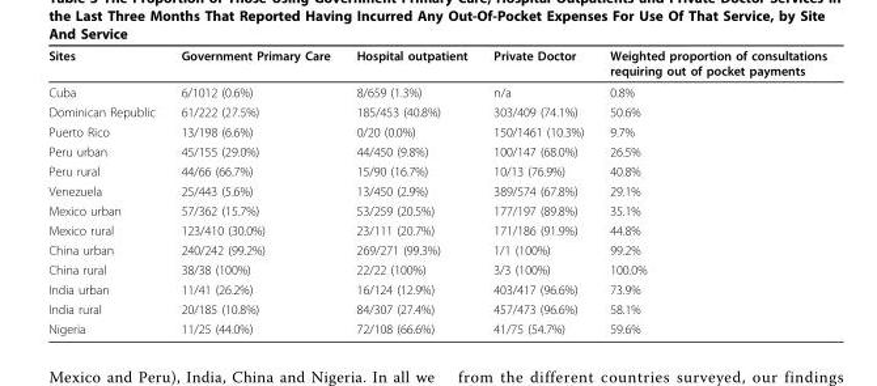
<table><thead><tr><td>Sites</td><td>Government Primary Care</td><td>Hospital outpatient</td><td>Private Doctor</td><td>Weighted proportion of consultations requiring out of pocket payments</td></tr></thead><tbody><tr><td>Cuba</td><td>6/1012 (0.6%)</td><td>8/659 (1.3%)</td><td>n/a</td><td>0.8%</td></tr><tr><td>Dominican Republic</td><td>61/222 (27.5%)</td><td>185/453 (40.8%)</td><td>303/409 (74.1%)</td><td>50.6%</td></tr><tr><td>Puerto Rico</td><td>13/198 (6.6%)</td><td>0/20 (0.0%)</td><td>150/1461 (10.3%)</td><td>9.7%</td></tr><tr><td>Peru urban</td><td>45/155 (29.0%)</td><td>44/450 (9.8%)</td><td>100/147 (68.0%)</td><td>26.5%</td></tr><tr><td>Peru rural</td><td>44/66 (66.7%)</td><td>15/90 (16.7%)</td><td>10/13 (76.9%)</td><td>40.8%</td></tr><tr><td>Venezuela</td><td>25/443 (5.6%)</td><td>13/450 (2.9%)</td><td>389/574 (67.8%)</td><td>29.1%</td></tr><tr><td>Mexico urban</td><td>57/362 (15.7%)</td><td>53/259 (20.5%)</td><td>177/197 (89.8%)</td><td>35.1%</td></tr><tr><td>Mexico rural</td><td>123/410 (30.0%)</td><td>23/111 (20.7%)</td><td>171/186 (91.9%)</td><td>44.8%</td></tr><tr><td>China urban</td><td>240/242 (99.2%)</td><td>269/271 (99.3%)</td><td>1/1 (100%)</td><td>99.2%</td></tr><tr><td>China rural</td><td>38/38 (100%)</td><td>22/22 (100%)</td><td>3/3 (100%)</td><td>100.0%</td></tr><tr><td>India urban</td><td>11/41 (26.2%)</td><td>16/124 (12.9%)</td><td>403/417 (96.6%)</td><td>73.9%</td></tr><tr><td>India rural</td><td>20/185 (10.8%)</td><td>84/307 (27.4%)</td><td>457/473 (96.6%)</td><td>58.1%</td></tr><tr><td>Nigeria</td><td>11/25 (44.0%)</td><td>72/108 (66.6%)</td><td>41/75 (54.7%)</td><td>59.6%</td></tr></tbody></table>